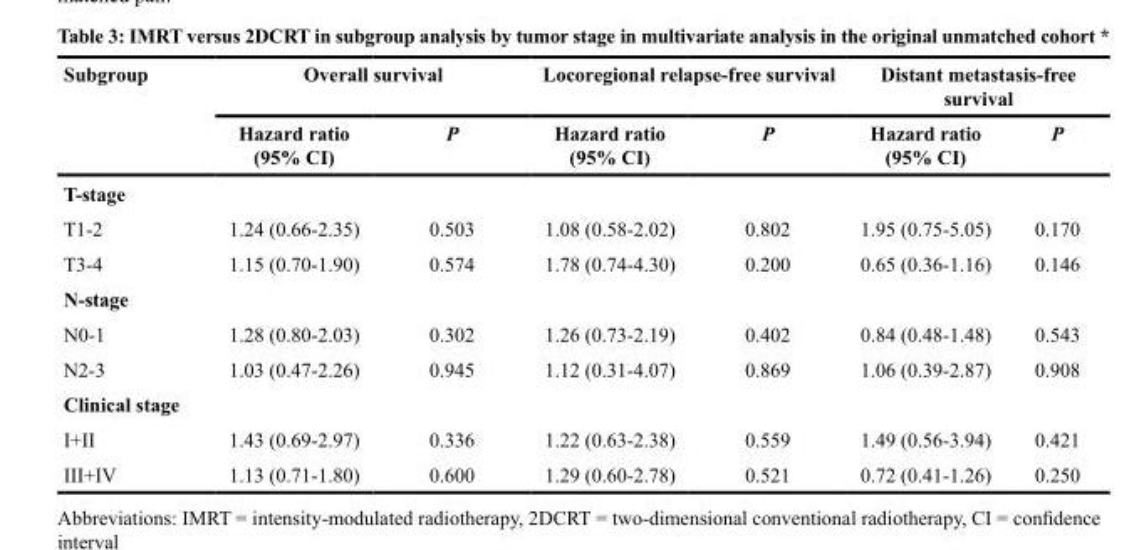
<table><thead><tr><td rowspan="2">Subgroup</td><td colspan="2">Overall survival</td><td colspan="2">Locoregional relapse-free survival</td><td colspan="2">Distant metastasis-free survival</td></tr><tr><td>Hazard ratio (95% CI)</td><td>P</td><td>Hazard ratio (95% CI)</td><td>P</td><td>Hazard ratio (95% CI)</td><td>P</td></tr></thead><tbody><tr><td colspan="7">T-stage</td></tr><tr><td>T1-2</td><td>1.24 (0.66-2.35)</td><td>0.503</td><td>1.08 (0.58-2.02)</td><td>0.802</td><td>1.95 (0.75-5.05)</td><td>0.170</td></tr><tr><td>T3-4</td><td>1.15 (0.70-1.90)</td><td>0.574</td><td>1.78 (0.74-4.30)</td><td>0.200</td><td>0.65 (0.36-1.16)</td><td>0.146</td></tr><tr><td colspan="7">N-stage</td></tr><tr><td>N0-1</td><td>1.28 (0.80-2.03)</td><td>0.302</td><td>1.26 (0.73-2.19)</td><td>0.402</td><td>0.84 (0.48-1.48)</td><td>0.543</td></tr><tr><td>N2-3</td><td>1.03 (0.47-2.26)</td><td>0.945</td><td>1.12 (0.31-4.07)</td><td>0.869</td><td>1.06 (0.39-2.87)</td><td>0.908</td></tr><tr><td colspan="7">Clinical stage</td></tr><tr><td>I+II</td><td>1.43 (0.69-2.97)</td><td>0.336</td><td>1.22 (0.63-2.38)</td><td>0.559</td><td>1.49 (0.56-3.94)</td><td>0.421</td></tr><tr><td>III+IV</td><td>1.13 (0.71-1.80)</td><td>0.600</td><td>1.29 (0.60-2.78)</td><td>0.521</td><td>0.72 (0.41-1.26)</td><td>0.250</td></tr></tbody></table>